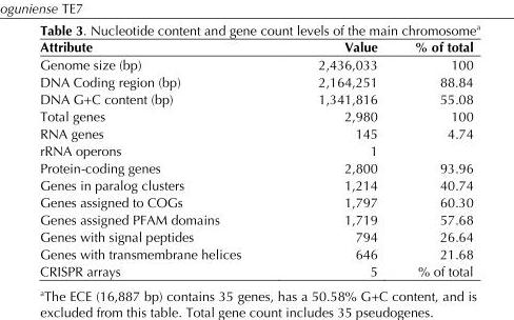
<table><thead><tr><td>Attribute</td><td>Value</td><td>% of total</td></tr></thead><tbody><tr><td>Genome size (bp)</td><td>2,436,033</td><td>100</td></tr><tr><td>DNA Coding region (bp)</td><td>2,164,251</td><td>88.84</td></tr><tr><td>DNA G+C content (bp)</td><td>1,341,816</td><td>55.08</td></tr><tr><td>Total genes</td><td>2,980</td><td>100</td></tr><tr><td>RNA genes</td><td>145</td><td>4.74</td></tr><tr><td>rRNA operons</td><td>1</td><td></td></tr><tr><td>Protein-coding genes</td><td>2,800</td><td>93.96</td></tr><tr><td>Genes in paralog clusters</td><td>1,214</td><td>40.74</td></tr><tr><td>Genes assigned to COGs</td><td>1,797</td><td>60.30</td></tr><tr><td>Genes assigned PFAM domains</td><td>1,719</td><td>57.68</td></tr><tr><td>Genes with signal peptides</td><td>794</td><td>26.64</td></tr><tr><td>Genes with transmembrane helices</td><td>646</td><td>21.68</td></tr><tr><td>CRISPR arrays</td><td>5</td><td>% of total</td></tr></tbody></table>